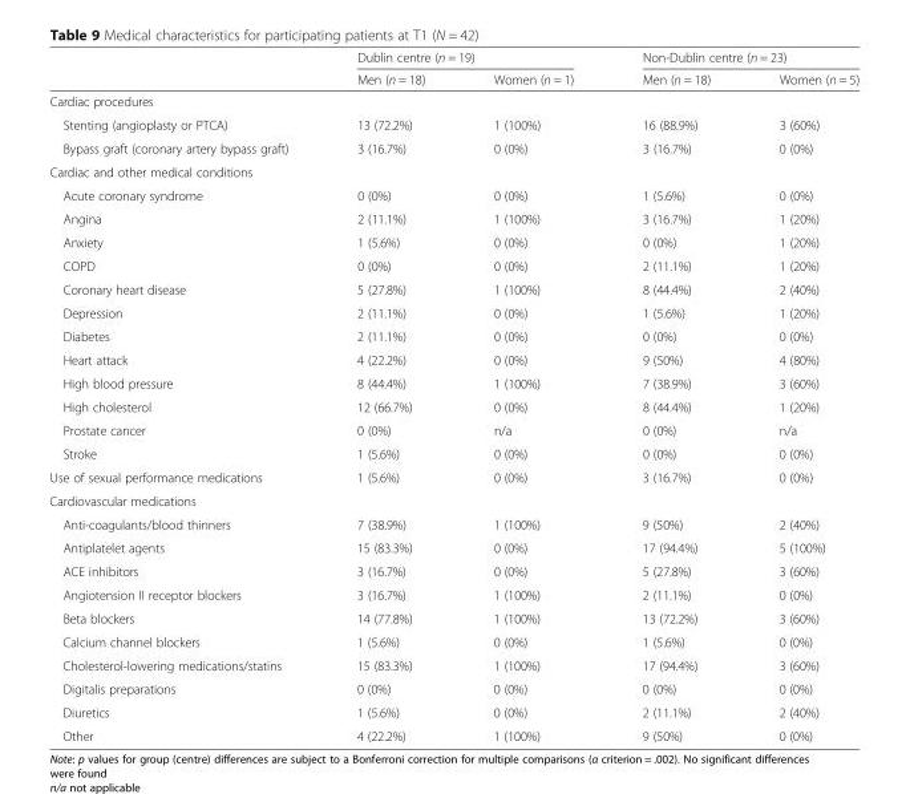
<table><thead><tr><td rowspan="2"></td><td colspan="2">Dublin centre (n = 19)</td><td colspan="2">Non-Dublin centre (n = 23)</td></tr><tr><td>Men (n = 18)</td><td>Women (n = 1)</td><td>Men (n = 18)</td><td>Women (n = 5)</td></tr></thead><tbody><tr><td colspan="5">Cardiac procedures</td></tr><tr><td>Stenting (angioplasty or PTCA)</td><td>13 (72.2%)</td><td>1 (100%)</td><td>16 (88.9%)</td><td>3 (60%)</td></tr><tr><td>Bypass graft (coronary artery bypass graft)</td><td>3 (16.7%)</td><td>0 (0%)</td><td>3 (16.7%)</td><td>0 (0%)</td></tr><tr><td colspan="5">Cardiac and other medical conditions</td></tr><tr><td>Acute coronary syndrome</td><td>0 (0%)</td><td>0 (0%)</td><td>1 (5.6%)</td><td>0 (0%)</td></tr><tr><td>Angina</td><td>2 (11.1%)</td><td>1 (100%)</td><td>3 (16.7%)</td><td>1 (20%)</td></tr><tr><td>Anxiety</td><td>1 (5.6%)</td><td>0 (0%)</td><td>0 (0%)</td><td>1 (20%)</td></tr><tr><td>COPD</td><td>0 (0%)</td><td>0 (0%)</td><td>2 (11.1%)</td><td>1 (20%)</td></tr><tr><td>Coronary heart disease</td><td>5 (27.8%)</td><td>1 (100%)</td><td>8 (44.4%)</td><td>2 (40%)</td></tr><tr><td>Depression</td><td>2 (11.1%)</td><td>0 (0%)</td><td>1 (5.6%)</td><td>1 (20%)</td></tr><tr><td>Diabetes</td><td>2 (11.1%)</td><td>0 (0%)</td><td>0 (0%)</td><td>0 (0%)</td></tr><tr><td>Heart attack</td><td>4 (22.2%)</td><td>0 (0%)</td><td>9 (50%)</td><td>4 (80%)</td></tr><tr><td>High blood pressure</td><td>8 (44.4%)</td><td>1 (100%)</td><td>7 (38.9%)</td><td>3 (60%)</td></tr><tr><td>High cholesterol</td><td>12 (66.7%)</td><td>0 (0%)</td><td>8 (44.4%)</td><td>1 (20%)</td></tr><tr><td>Prostate cancer</td><td>0 (0%)</td><td>n/a</td><td>0 (0%)</td><td>n/a</td></tr><tr><td>Stroke</td><td>1 (5.6%)</td><td>0 (0%)</td><td>0 (0%)</td><td>0 (0%)</td></tr><tr><td>Use of sexual performance medications</td><td>1 (5.6%)</td><td>0 (0%)</td><td>3 (16.7%)</td><td>0 (0%)</td></tr><tr><td colspan="5">Cardiovascular medications</td></tr><tr><td>Anti-coagulants/blood thinners</td><td>7 (38.9%)</td><td>1 (100%)</td><td>9 (50%)</td><td>2 (40%)</td></tr><tr><td>Antiplatelet agents</td><td>15 (83.3%)</td><td>0 (0%)</td><td>17 (94.4%)</td><td>5 (100%)</td></tr><tr><td>ACE inhibitors</td><td>3 (16.7%)</td><td>0 (0%)</td><td>5 (27.8%)</td><td>3 (60%)</td></tr><tr><td>Angiotension II receptor blockers</td><td>3 (16.7%)</td><td>1 (100%)</td><td>2 (11.1%)</td><td>0 (0%)</td></tr><tr><td>Beta blockers</td><td>14 (77.8%)</td><td>1 (100%)</td><td>13 (72.2%)</td><td>3 (60%)</td></tr><tr><td>Calcium channel blockers</td><td>1 (5.6%)</td><td>0 (0%)</td><td>1 (5.6%)</td><td>0 (0%)</td></tr><tr><td>Cholesterol-lowering medications/statins</td><td>15 (83.3%)</td><td>1 (100%)</td><td>17 (94.4%)</td><td>3 (60%)</td></tr><tr><td>Digitalis preparations</td><td>0 (0%)</td><td>0 (0%)</td><td>0 (0%)</td><td>0 (0%)</td></tr><tr><td>Diuretics</td><td>1 (5.6%)</td><td>0 (0%)</td><td>2 (11.1%)</td><td>2 (40%)</td></tr><tr><td>Other</td><td>4 (22.2%)</td><td>1 (100%)</td><td>9 (50%)</td><td>0 (0%)</td></tr></tbody></table>